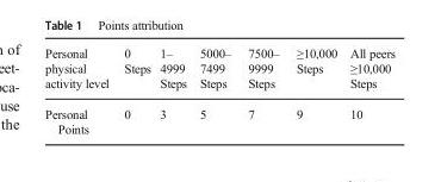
<table><thead><tr><td>Personal physical activity level</td><td>0 Steps</td><td>1– 4999 Steps</td><td>5000– 7499 Steps</td><td>7500– 9999 Steps</td><td>≥10,000 Steps</td><td>All peers ≥10,000 Steps</td></tr></thead><tbody><tr><td>Personal Points</td><td>0</td><td>3</td><td>5</td><td>7</td><td>9</td><td>10</td></tr></tbody></table>